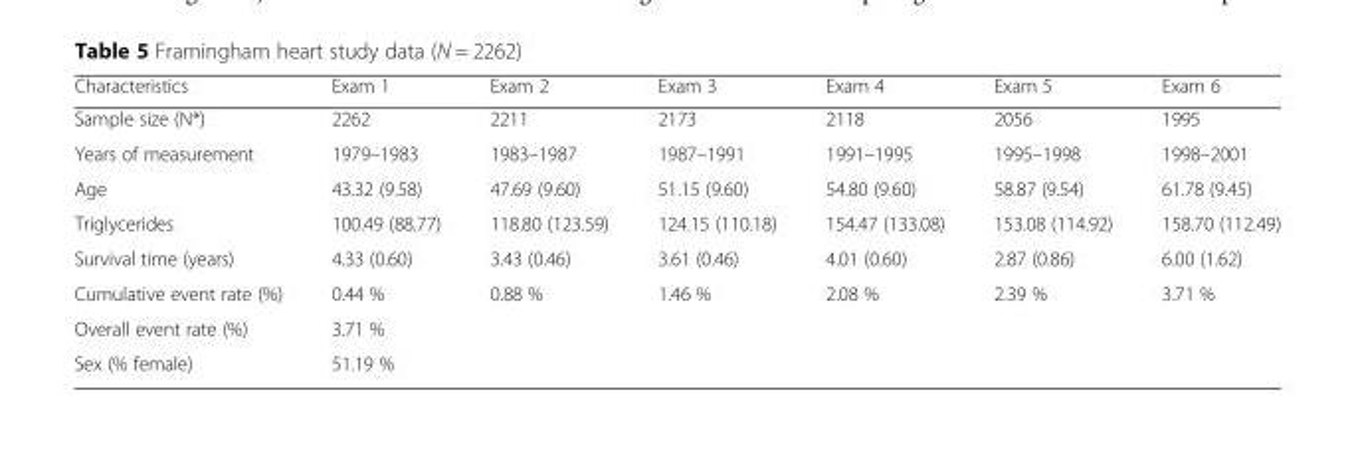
<table><thead><tr><td>Characteristics</td><td>Exam 1</td><td>Exam 2</td><td>Exam 3</td><td>Exam 4</td><td>Exam 5</td><td>Exam 6</td></tr></thead><tbody><tr><td>Sample size (N*)</td><td>2262</td><td>2211</td><td>2173</td><td>2118</td><td>2056</td><td>1995</td></tr><tr><td>Years of measurement</td><td>1979–1983</td><td>1983–1987</td><td>1987–1991</td><td>1991–1995</td><td>1995–1998</td><td>1998–2001</td></tr><tr><td>Age</td><td>43.32 (9.58)</td><td>47.69 (9.60)</td><td>51.15 (9.60)</td><td>54.80 (9.60)</td><td>58.87 (9.54)</td><td>61.78 (9.45)</td></tr><tr><td>Triglycerides</td><td>100.49 (88.77)</td><td>118.80 (123.59)</td><td>124.15 (110.18)</td><td>154.47 (133.08)</td><td>153.08 (114.92)</td><td>158.70 (112.49)</td></tr><tr><td>Survival time (years)</td><td>4.33 (0.60)</td><td>3.43 (0.46)</td><td>3.61 (0.46)</td><td>4.01 (0.60)</td><td>2.87 (0.86)</td><td>6.00 (1.62)</td></tr><tr><td>Cumulative event rate (%)</td><td>0.44 %</td><td>0.88 %</td><td>1.46 %</td><td>2.08 %</td><td>2.39 %</td><td>3.71 %</td></tr><tr><td>Overall event rate (%)</td><td colspan="6">3.71 %</td></tr><tr><td>Sex (% female)</td><td colspan="6">51.19 %</td></tr></tbody></table>